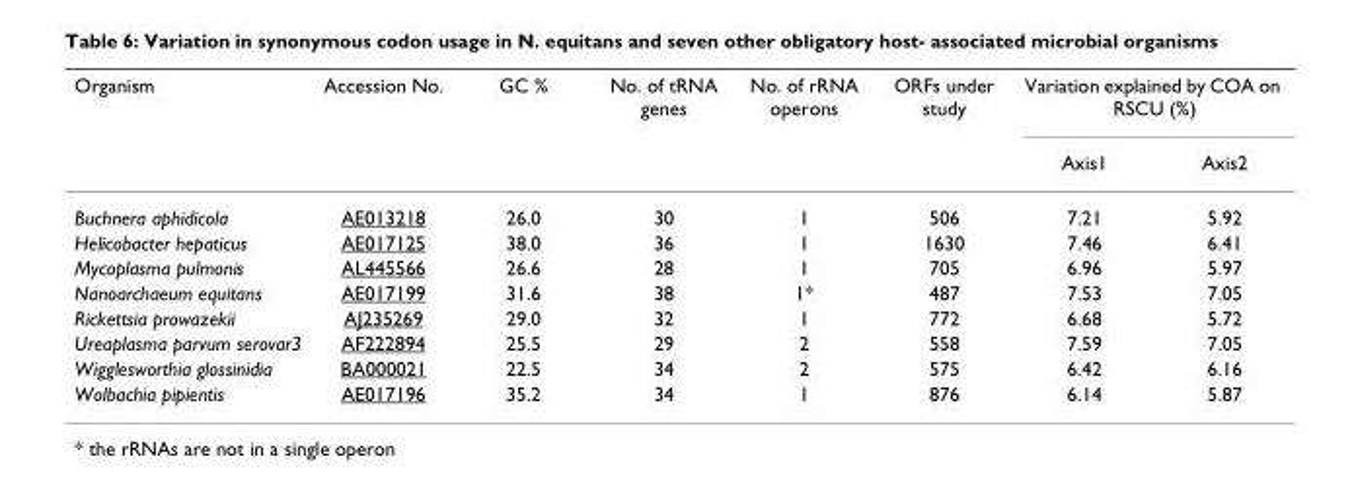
<table><thead><tr><td rowspan="2">Organism</td><td rowspan="2">Accession No.</td><td rowspan="2">GC %</td><td rowspan="2">No. of tRNA genes</td><td rowspan="2">No. of rRNA operons</td><td rowspan="2">ORFs under study</td><td colspan="2">Variation explained by COA on RSCU (%)</td></tr><tr><td>Axis1</td><td>Axis2</td></tr></thead><tbody><tr><td>Buchnera aphidicola</td><td>AE013218</td><td>26.0</td><td>30</td><td>1</td><td>506</td><td>7.21</td><td>5.92</td></tr><tr><td>Helicobacter hepaticus</td><td>AE017125</td><td>38.0</td><td>36</td><td>1</td><td>1630</td><td>7.46</td><td>6.41</td></tr><tr><td>Mycoplasma pulmonis</td><td>AL445566</td><td>26.6</td><td>28</td><td>1</td><td>705</td><td>6.96</td><td>5.97</td></tr><tr><td>Nanoarchaeum equitans</td><td>AE017199</td><td>31.6</td><td>38</td><td>1*</td><td>487</td><td>7.53</td><td>7.05</td></tr><tr><td>Rickettsia prowazekii</td><td>AJ235269</td><td>29.0</td><td>32</td><td>1</td><td>772</td><td>6.68</td><td>5.72</td></tr><tr><td>Ureaplasma parvum serovar3</td><td>AF222894</td><td>25.5</td><td>29</td><td>2</td><td>558</td><td>7.59</td><td>7.05</td></tr><tr><td>Wigglesworthia glossinidia</td><td>BA000021</td><td>22.5</td><td>34</td><td>2</td><td>575</td><td>6.42</td><td>6.16</td></tr><tr><td>Wolbachia pipientis</td><td>AE017196</td><td>35.2</td><td>34</td><td>1</td><td>876</td><td>6.14</td><td>5.87</td></tr></tbody></table>